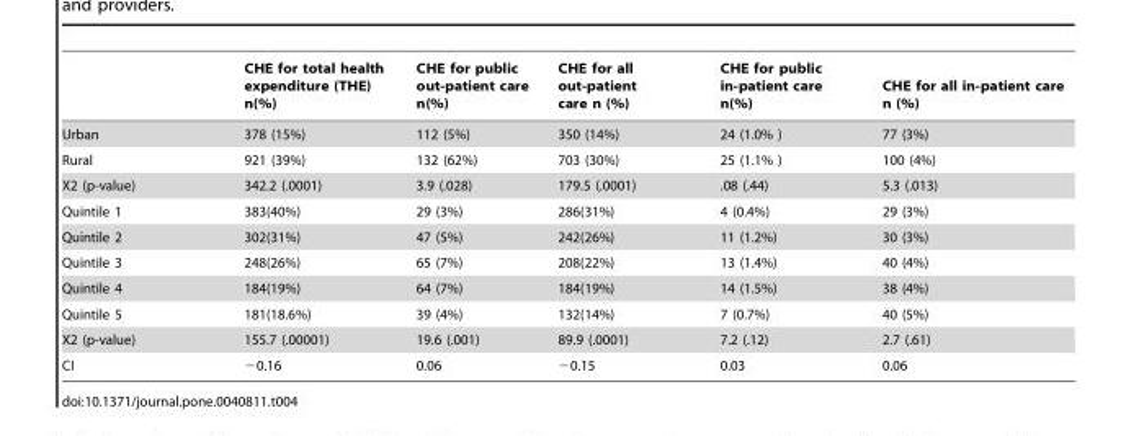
<table><thead><tr><td></td><td>CHE for total health expenditure (THE) n(%)</td><td>CHE for public out-patient care n(%)</td><td>CHE for all out-patient care n (%)</td><td>CHE for public in-patient care n(%)</td><td>CHE for all in-patient care n (%)</td></tr></thead><tbody><tr><td>Urban</td><td>378 (15%)</td><td>112 (5%)</td><td>350 (14%)</td><td>24 (1.0% )</td><td>77 (3%)</td></tr><tr><td>Rural</td><td>921 (39%)</td><td>132 (62%)</td><td>703 (30%)</td><td>25 (1.1% )</td><td>100 (4%)</td></tr><tr><td>X2 (p-value)</td><td>342.2 (.0001)</td><td>3.9 (.028)</td><td>179.5 (.0001)</td><td>.08 (.44)</td><td>5.3 (.013)</td></tr><tr><td>Quintile 1</td><td>383(40%)</td><td>29 (3%)</td><td>286(31%)</td><td>4 (0.4%)</td><td>29 (3%)</td></tr><tr><td>Quintile 2</td><td>302(31%)</td><td>47 (5%)</td><td>242(26%)</td><td>11 (1.2%)</td><td>30 (3%)</td></tr><tr><td>Quintile 3</td><td>248(26%)</td><td>65 (7%)</td><td>208(22%)</td><td>13 (1.4%)</td><td>40 (4%)</td></tr><tr><td>Quintile 4</td><td>184(19%)</td><td>64 (7%)</td><td>184(19%)</td><td>14 (1.5%)</td><td>38 (4%)</td></tr><tr><td>Quintile 5</td><td>181(18.6%)</td><td>39 (4%)</td><td>132(14%)</td><td>7 (0.7%)</td><td>40 (5%)</td></tr><tr><td>X2 (p-value)</td><td>155.7 (.00001)</td><td>19.6 (.001)</td><td>89.9 (.0001)</td><td>7.2 (.12)</td><td>2.7 (.61)</td></tr><tr><td>CI</td><td>−0.16</td><td>0.06</td><td>−0.15</td><td>0.03</td><td>0.06</td></tr></tbody></table>